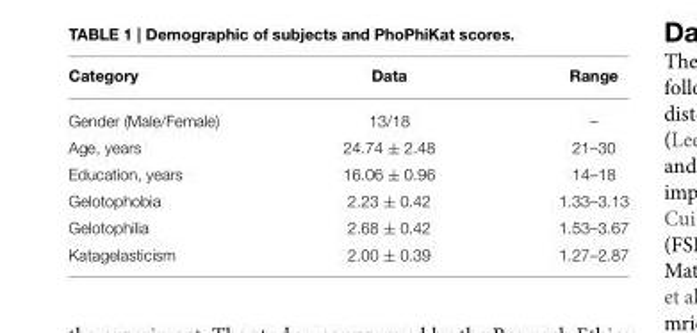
<table><thead><tr><td>Category</td><td>Data</td><td>Range</td></tr></thead><tbody><tr><td>Gender (Male/Female)</td><td>13/18</td><td>–</td></tr><tr><td>Age, years</td><td>24.74 ± 2.48</td><td>21–30</td></tr><tr><td>Education, years</td><td>16.06 ± 0.96</td><td>14–18</td></tr><tr><td>Gelotophobia</td><td>2.23 ± 0.42</td><td>1.33–3.13</td></tr><tr><td>Gelotophilia</td><td>2.68 ± 0.42</td><td>1.53–3.67</td></tr><tr><td>Katagelasticism</td><td>2.00 ± 0.39</td><td>1.27–2.87</td></tr></tbody></table>